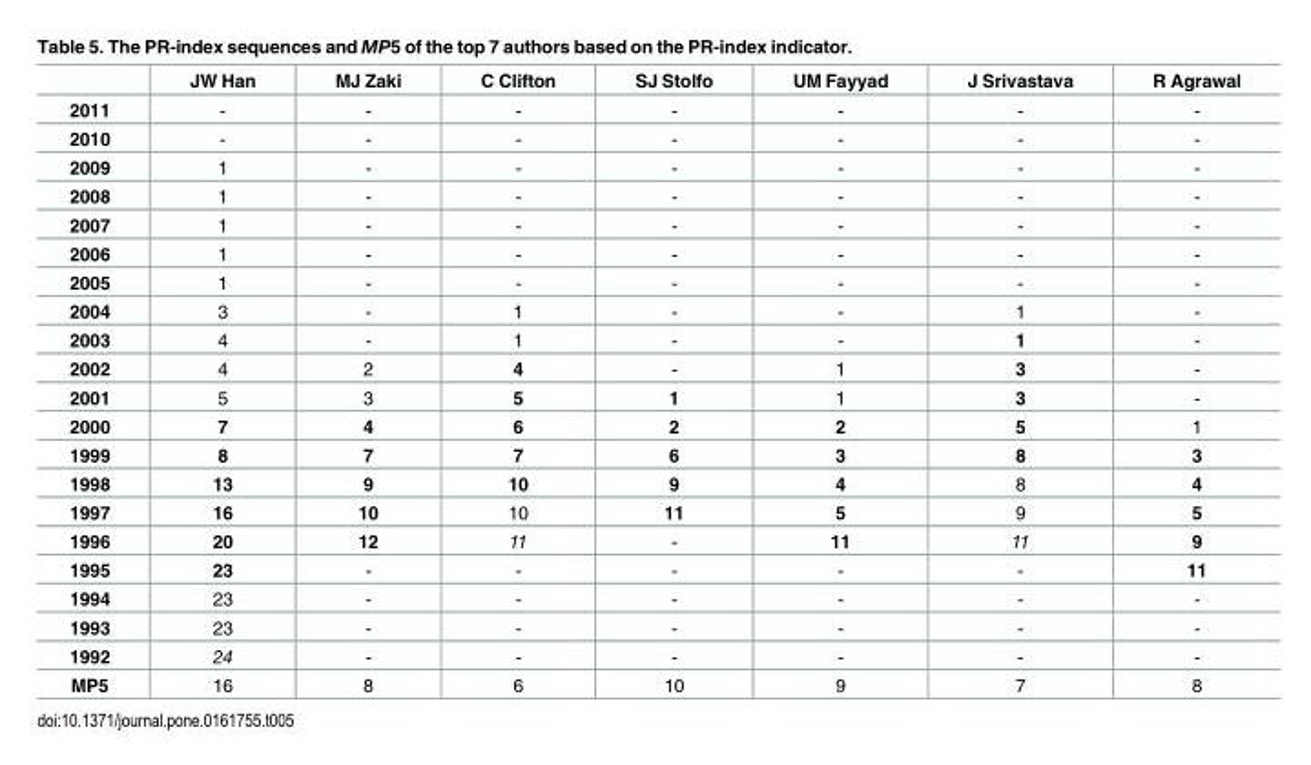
<table><thead><tr><td></td><td>JW Han</td><td>MJ Zaki</td><td>C Clifton</td><td>SJ Stolfo</td><td>UM Fayyad</td><td>J Srivastava</td><td>R Agrawal</td></tr></thead><tbody><tr><td>2011</td><td>-</td><td>-</td><td>-</td><td>-</td><td>-</td><td>-</td><td>-</td></tr><tr><td>2010</td><td>-</td><td>-</td><td>-</td><td>-</td><td>-</td><td>-</td><td>-</td></tr><tr><td>2009</td><td>1</td><td>-</td><td>-</td><td>-</td><td>-</td><td>-</td><td>-</td></tr><tr><td>2008</td><td>1</td><td>-</td><td>-</td><td>-</td><td>-</td><td>-</td><td>-</td></tr><tr><td>2007</td><td>1</td><td>-</td><td>-</td><td>-</td><td>-</td><td>-</td><td>-</td></tr><tr><td>2006</td><td>1</td><td>-</td><td>-</td><td>-</td><td>-</td><td>-</td><td>-</td></tr><tr><td>2005</td><td>1</td><td>-</td><td>-</td><td>-</td><td>-</td><td>-</td><td>-</td></tr><tr><td>2004</td><td>3</td><td>-</td><td>1</td><td>-</td><td>-</td><td>1</td><td>-</td></tr><tr><td>2003</td><td>4</td><td>-</td><td>1</td><td>-</td><td>-</td><td>1</td><td>-</td></tr><tr><td>2002</td><td>4</td><td>2</td><td>4</td><td>-</td><td>1</td><td>3</td><td>-</td></tr><tr><td>2001</td><td>5</td><td>3</td><td>5</td><td>1</td><td>1</td><td>3</td><td>-</td></tr><tr><td>2000</td><td>7</td><td>4</td><td>6</td><td>2</td><td>2</td><td>5</td><td>1</td></tr><tr><td>1999</td><td>8</td><td>7</td><td>7</td><td>6</td><td>3</td><td>8</td><td>3</td></tr><tr><td>1998</td><td>13</td><td>9</td><td>10</td><td>9</td><td>4</td><td>8</td><td>4</td></tr><tr><td>1997</td><td>16</td><td>10</td><td>10</td><td>11</td><td>5</td><td>9</td><td>5</td></tr><tr><td>1996</td><td>20</td><td>12</td><td>11</td><td>-</td><td>11</td><td>11</td><td>9</td></tr><tr><td>1995</td><td>23</td><td>-</td><td>-</td><td>-</td><td>-</td><td>-</td><td>11</td></tr><tr><td>1994</td><td>23</td><td>-</td><td>-</td><td>-</td><td>-</td><td>-</td><td>-</td></tr><tr><td>1993</td><td>23</td><td>-</td><td>-</td><td>-</td><td>-</td><td>-</td><td>-</td></tr><tr><td>1992</td><td>24</td><td>-</td><td>-</td><td>-</td><td>-</td><td>-</td><td>-</td></tr><tr><td>MP5</td><td>16</td><td>8</td><td>6</td><td>10</td><td>9</td><td>7</td><td>8</td></tr></tbody></table>